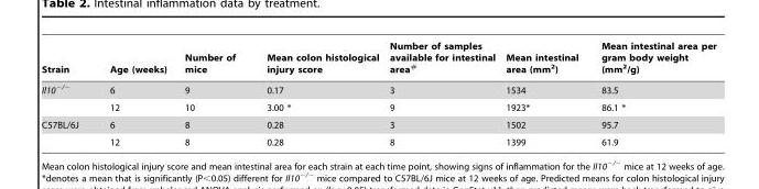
<table><thead><tr><td>Strain</td><td>Age (weeks)</td><td>Number of mice</td><td>Mean colon histological injury score</td><td>Number of samples available for intestinal area#</td><td>Mean intestinal area (mm<sup>2</sup>)</td><td>Mean intestinal area per gram body weight (mm<sup>2</sup>/g)</td></tr></thead><tbody><tr><td rowspan="2">Il10<sup>−/−</sup></td><td>6</td><td>9</td><td>0.17</td><td>3</td><td>1534</td><td>83.5</td></tr><tr><td>12</td><td>10</td><td>3.00 *</td><td>9</td><td>1923*</td><td>86.1 *</td></tr><tr><td rowspan="2">C57BL/6J</td><td>6</td><td>8</td><td>0.28</td><td>3</td><td>1502</td><td>95.7</td></tr><tr><td>12</td><td>8</td><td>0.28</td><td>8</td><td>1399</td><td>61.9</td></tr></tbody></table>